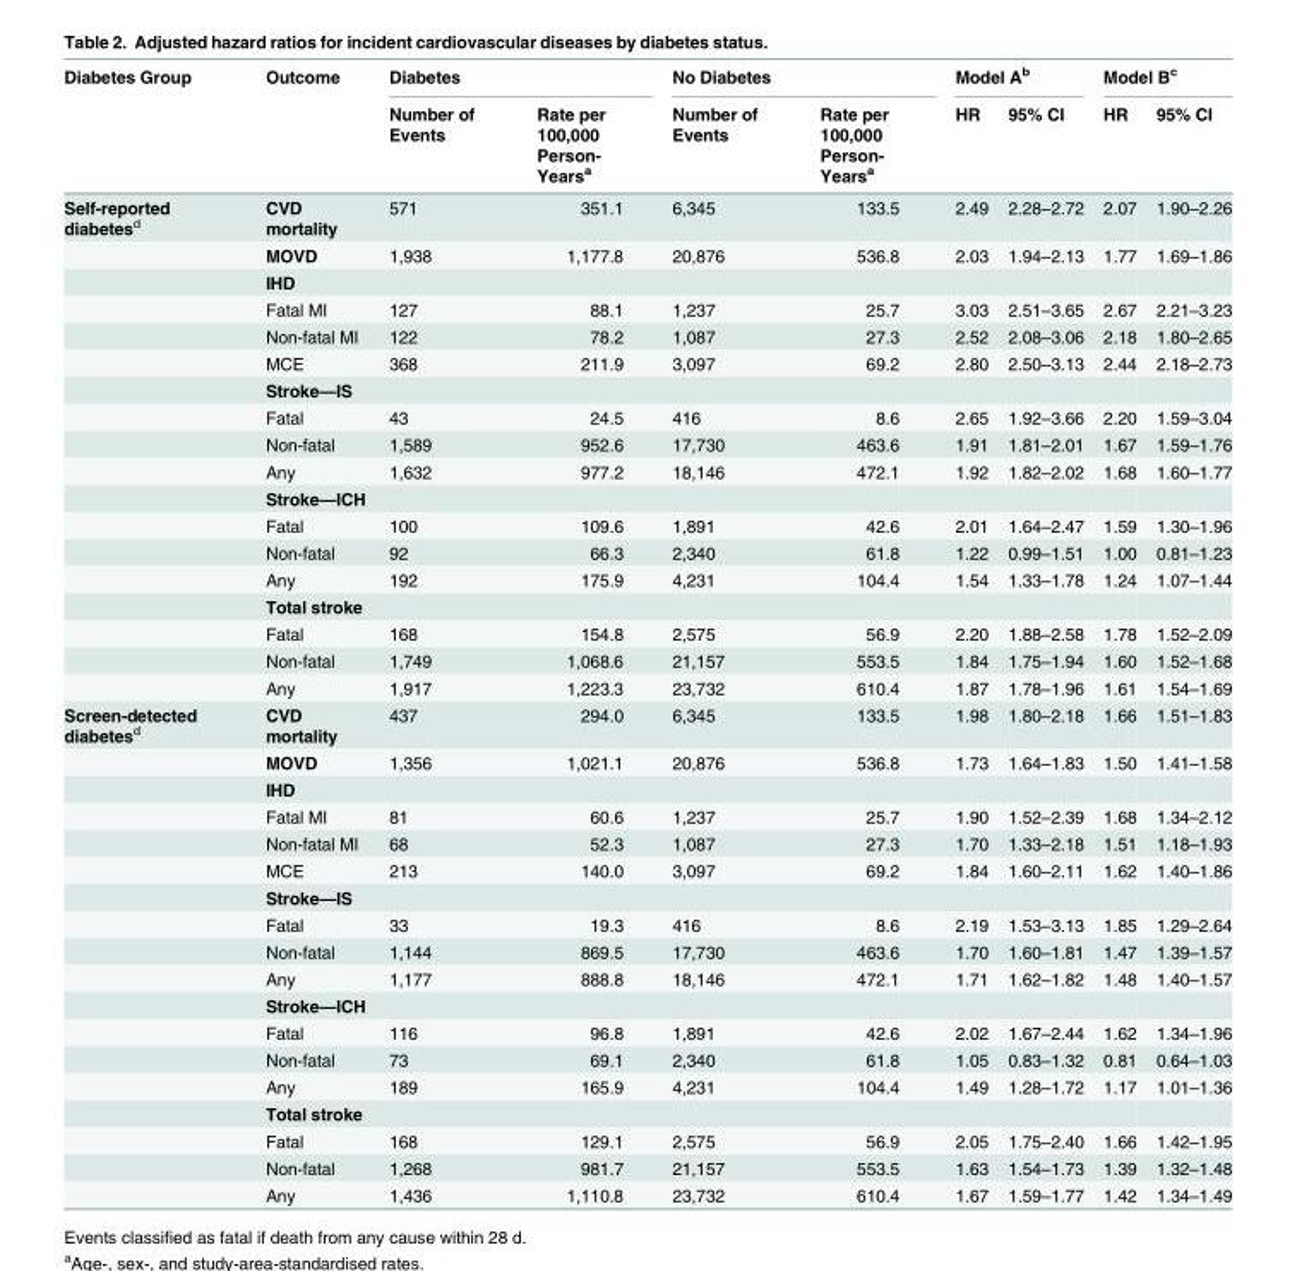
<table><thead><tr><td rowspan="2">Diabetes Group</td><td rowspan="2">Outcome</td><td colspan="2">Diabetes</td><td colspan="2">No Diabetes</td><td colspan="2">Model A<sup>b</sup></td><td colspan="2">Model B<sup>c</sup></td></tr><tr><td>Number of Events</td><td>Rate per 100,000 Person- Years<sup>a</sup></td><td>Number of Events</td><td>Rate per 100,000 Person- Years<sup>a</sup></td><td>HR</td><td>95% CI</td><td>HR</td><td>95% CI</td></tr></thead><tbody><tr><td rowspan="18">Self-reported diabetes<sup>d</sup></td><td>CVD mortality</td><td>571</td><td>351.1</td><td>6,345</td><td>133.5</td><td>2.49</td><td>2.28–2.72</td><td>2.07</td><td>1.90–2.26</td></tr><tr><td>MOVD</td><td>1,938</td><td>1,177.8</td><td>20,876</td><td>536.8</td><td>2.03</td><td>1.94–2.13</td><td>1.77</td><td>1.69–1.86</td></tr><tr><td>IHD</td><td></td><td></td><td></td><td></td><td></td><td></td><td></td><td></td></tr><tr><td>Fatal MI</td><td>127</td><td>88.1</td><td>1,237</td><td>25.7</td><td>3.03</td><td>2.51–3.65</td><td>2.67</td><td>2.21–3.23</td></tr><tr><td>Non-fatal MI</td><td>122</td><td>78.2</td><td>1,087</td><td>27.3</td><td>2.52</td><td>2.08–3.06</td><td>2.18</td><td>1.80–2.65</td></tr><tr><td>MCE</td><td>368</td><td>211.9</td><td>3,097</td><td>69.2</td><td>2.80</td><td>2.50–3.13</td><td>2.44</td><td>2.18–2.73</td></tr><tr><td>Stroke—IS</td><td></td><td></td><td></td><td></td><td></td><td></td><td></td><td></td></tr><tr><td>Fatal</td><td>43</td><td>24.5</td><td>416</td><td>8.6</td><td>2.65</td><td>1.92–3.66</td><td>2.20</td><td>1.59–3.04</td></tr><tr><td>Non-fatal</td><td>1,589</td><td>952.6</td><td>17,730</td><td>463.6</td><td>1.91</td><td>1.81–2.01</td><td>1.67</td><td>1.59–1.76</td></tr><tr><td>Any</td><td>1,632</td><td>977.2</td><td>18,146</td><td>472.1</td><td>1.92</td><td>1.82–2.02</td><td>1.68</td><td>1.60–1.77</td></tr><tr><td>Stroke—ICH</td><td></td><td></td><td></td><td></td><td></td><td></td><td></td><td></td></tr><tr><td>Fatal</td><td>100</td><td>109.6</td><td>1,891</td><td>42.6</td><td>2.01</td><td>1.64–2.47</td><td>1.59</td><td>1.30–1.96</td></tr><tr><td>Non-fatal</td><td>92</td><td>66.3</td><td>2,340</td><td>61.8</td><td>1.22</td><td>0.99–1.51</td><td>1.00</td><td>0.81–1.23</td></tr><tr><td>Any</td><td>192</td><td>175.9</td><td>4,231</td><td>104.4</td><td>1.54</td><td>1.33–1.78</td><td>1.24</td><td>1.07–1.44</td></tr><tr><td>Total stroke</td><td></td><td></td><td></td><td></td><td></td><td></td><td></td><td></td></tr><tr><td>Fatal</td><td>168</td><td>154.8</td><td>2,575</td><td>56.9</td><td>2.20</td><td>1.88–2.58</td><td>1.78</td><td>1.52–2.09</td></tr><tr><td>Non-fatal</td><td>1,749</td><td>1,068.6</td><td>21,157</td><td>553.5</td><td>1.84</td><td>1.75–1.94</td><td>1.60</td><td>1.52–1.68</td></tr><tr><td>Any</td><td>1,917</td><td>1,223.3</td><td>23,732</td><td>610.4</td><td>1.87</td><td>1.78–1.96</td><td>1.61</td><td>1.54–1.69</td></tr><tr><td rowspan="18">Screen-detected diabetes<sup>d</sup></td><td>CVD mortality</td><td>437</td><td>294.0</td><td>6,345</td><td>133.5</td><td>1.98</td><td>1.80–2.18</td><td>1.66</td><td>1.51–1.83</td></tr><tr><td>MOVD</td><td>1,356</td><td>1,021.1</td><td>20,876</td><td>536.8</td><td>1.73</td><td>1.64–1.83</td><td>1.50</td><td>1.41–1.58</td></tr><tr><td>IHD</td><td></td><td></td><td></td><td></td><td></td><td></td><td></td><td></td></tr><tr><td>Fatal MI</td><td>81</td><td>60.6</td><td>1,237</td><td>25.7</td><td>1.90</td><td>1.52–2.39</td><td>1.68</td><td>1.34–2.12</td></tr><tr><td>Non-fatal MI</td><td>68</td><td>52.3</td><td>1,087</td><td>27.3</td><td>1.70</td><td>1.33–2.18</td><td>1.51</td><td>1.18–1.93</td></tr><tr><td>MCE</td><td>213</td><td>140.0</td><td>3,097</td><td>69.2</td><td>1.84</td><td>1.60–2.11</td><td>1.62</td><td>1.40–1.86</td></tr><tr><td>Stroke—IS</td><td></td><td></td><td></td><td></td><td></td><td></td><td></td><td></td></tr><tr><td>Fatal</td><td>33</td><td>19.3</td><td>416</td><td>8.6</td><td>2.19</td><td>1.53–3.13</td><td>1.85</td><td>1.29–2.64</td></tr><tr><td>Non-fatal</td><td>1,144</td><td>869.5</td><td>17,730</td><td>463.6</td><td>1.70</td><td>1.60–1.81</td><td>1.47</td><td>1.39–1.57</td></tr><tr><td>Any</td><td>1,177</td><td>888.8</td><td>18,146</td><td>472.1</td><td>1.71</td><td>1.62–1.82</td><td>1.48</td><td>1.40–1.57</td></tr><tr><td>Stroke—ICH</td><td></td><td></td><td></td><td></td><td></td><td></td><td></td><td></td></tr><tr><td>Fatal</td><td>116</td><td>96.8</td><td>1,891</td><td>42.6</td><td>2.02</td><td>1.67–2.44</td><td>1.62</td><td>1.34–1.96</td></tr><tr><td>Non-fatal</td><td>73</td><td>69.1</td><td>2,340</td><td>61.8</td><td>1.05</td><td>0.83–1.32</td><td>0.81</td><td>0.64–1.03</td></tr><tr><td>Any</td><td>189</td><td>165.9</td><td>4,231</td><td>104.4</td><td>1.49</td><td>1.28–1.72</td><td>1.17</td><td>1.01–1.36</td></tr><tr><td>Total stroke</td><td></td><td></td><td></td><td></td><td></td><td></td><td></td><td></td></tr><tr><td>Fatal</td><td>168</td><td>129.1</td><td>2,575</td><td>56.9</td><td>2.05</td><td>1.75–2.40</td><td>1.66</td><td>1.42–1.95</td></tr><tr><td>Non-fatal</td><td>1,268</td><td>981.7</td><td>21,157</td><td>553.5</td><td>1.63</td><td>1.54–1.73</td><td>1.39</td><td>1.32–1.48</td></tr><tr><td>Any</td><td>1,436</td><td>1,110.8</td><td>23,732</td><td>610.4</td><td>1.67</td><td>1.59–1.77</td><td>1.42</td><td>1.34–1.49</td></tr></tbody></table>